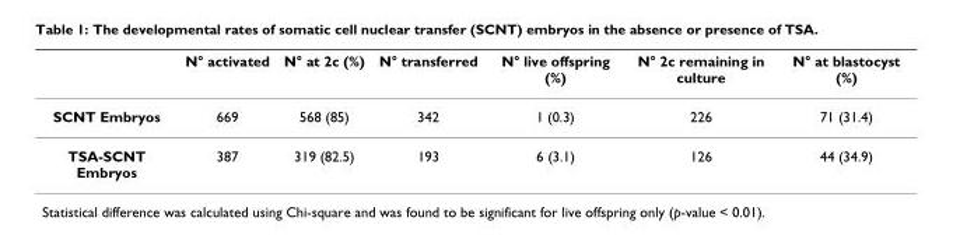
<table><thead><tr><td></td><td>N° activated</td><td>N° at 2c (%)</td><td>N° transferred</td><td>N° live offspring (%)</td><td>N° 2c remaining in culture</td><td>N° at blastocyst (%)</td></tr></thead><tbody><tr><td>SCNT Embryos</td><td>669</td><td>568 (85)</td><td>342</td><td>1 (0.3)</td><td>226</td><td>71 (31.4)</td></tr><tr><td>TSA-SCNT Embryos</td><td>387</td><td>319 (82.5)</td><td>193</td><td>6 (3.1)</td><td>126</td><td>44 (34.9)</td></tr></tbody></table>